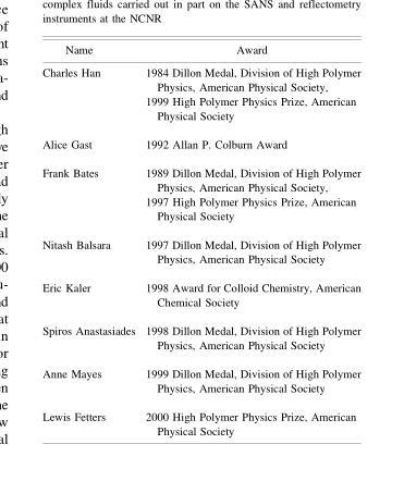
<table><thead><tr><td>Name</td><td>Award</td></tr></thead><tbody><tr><td rowspan="2">Charles Han</td><td>1984 Dillon Medal, Division of High Polymer Physics, American Physical Society,</td></tr><tr><td>1999 High Polymer Physics Prize, American Physical Society</td></tr><tr><td>Alice Gast</td><td>1992 Allan P. Colburn Award</td></tr><tr><td rowspan="2">Frank Bates</td><td>1989 Dillon Medal, Division of High Polymer Physics, American Physical Society,</td></tr><tr><td>1997 High Polymer Physics Prize, American Physical Society</td></tr><tr><td>Nitash Balsara</td><td>1997 Dillon Medal, Division of High Polymer Physics, American Physical Society</td></tr><tr><td>Eric Kaler</td><td>1998 Award for Colloid Chemistry, American Chemical Society</td></tr><tr><td>Spiros Anastasiades</td><td>1998 Dillon Medal, Division of High Polymer Physics, American Physical Society</td></tr><tr><td>Anne Mayes</td><td>1999 Dillon Medal, Division of High Polymer Physics, American Physical Society</td></tr><tr><td>Lewis Fetters</td><td>2000 High Polymer Physics Prize, American Physical Society</td></tr></tbody></table>